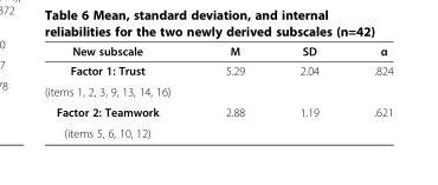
<table><thead><tr><td>New subscale</td><td>M</td><td>SD</td><td>α</td></tr></thead><tbody><tr><td>Factor 1: Trust</td><td rowspan="2">5.29</td><td rowspan="2">2.04</td><td rowspan="2">.824</td></tr><tr><td>(items 1, 2, 3, 9, 13, 14, 16)</td></tr><tr><td>Factor 2: Teamwork</td><td>2.88</td><td>1.19</td><td>.621</td></tr><tr><td>(items 5, 6, 10, 12)</td><td></td><td></td><td></td></tr></tbody></table>